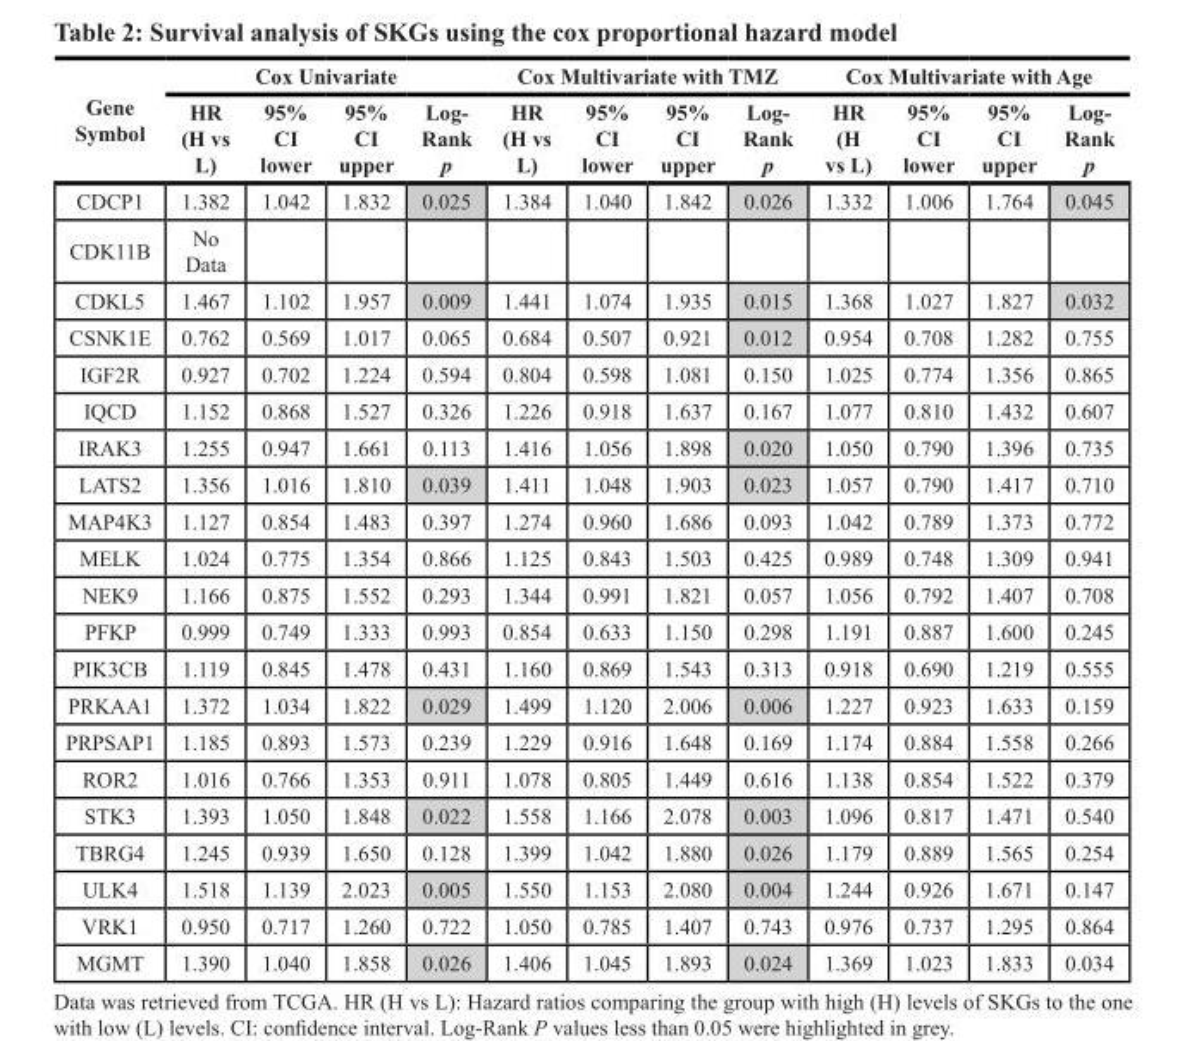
<table><thead><tr><td rowspan="2">Gene Symbol</td><td colspan="4">Cox Univariate</td><td colspan="4">Cox Multivariate with TMZ</td><td colspan="4">Cox Multivariate with Age</td></tr><tr><td>HR (H vs L)</td><td>95% CI lower</td><td>95% CI upper</td><td>Log- Rank p</td><td>HR (H vs L)</td><td>95% CI lower</td><td>95% CI upper</td><td>Log- Rank p</td><td>HR (H vs L)</td><td>95% CI lower</td><td>95% CI upper</td><td>Log- Rank p</td></tr></thead><tbody><tr><td>CDCP1</td><td>1.382</td><td>1.042</td><td>1.832</td><td>0.025</td><td>1.384</td><td>1.040</td><td>1.842</td><td>0.026</td><td>1.332</td><td>1.006</td><td>1.764</td><td>0.045</td></tr><tr><td>CDK11B</td><td>No Data</td><td></td><td></td><td></td><td></td><td></td><td></td><td></td><td></td><td></td><td></td><td></td></tr><tr><td>CDKL5</td><td>1.467</td><td>1.102</td><td>1.957</td><td>0.009</td><td>1.441</td><td>1.074</td><td>1.935</td><td>0.015</td><td>1.368</td><td>1.027</td><td>1.827</td><td>0.032</td></tr><tr><td>CSNK1E</td><td>0.762</td><td>0.569</td><td>1.017</td><td>0.065</td><td>0.684</td><td>0.507</td><td>0.921</td><td>0.012</td><td>0.954</td><td>0.708</td><td>1.282</td><td>0.755</td></tr><tr><td>IGF2R</td><td>0.927</td><td>0.702</td><td>1.224</td><td>0.594</td><td>0.804</td><td>0.598</td><td>1.081</td><td>0.150</td><td>1.025</td><td>0.774</td><td>1.356</td><td>0.865</td></tr><tr><td>IQCD</td><td>1.152</td><td>0.868</td><td>1.527</td><td>0.326</td><td>1.226</td><td>0.918</td><td>1.637</td><td>0.167</td><td>1.077</td><td>0.810</td><td>1.432</td><td>0.607</td></tr><tr><td>IRAK3</td><td>1.255</td><td>0.947</td><td>1.661</td><td>0.113</td><td>1.416</td><td>1.056</td><td>1.898</td><td>0.020</td><td>1.050</td><td>0.790</td><td>1.396</td><td>0.735</td></tr><tr><td>LATS2</td><td>1.356</td><td>1.016</td><td>1.810</td><td>0.039</td><td>1.411</td><td>1.048</td><td>1.903</td><td>0.023</td><td>1.057</td><td>0.790</td><td>1.417</td><td>0.710</td></tr><tr><td>MAP4K3</td><td>1.127</td><td>0.854</td><td>1.483</td><td>0.397</td><td>1.274</td><td>0.960</td><td>1.686</td><td>0.093</td><td>1.042</td><td>0.789</td><td>1.373</td><td>0.772</td></tr><tr><td>MELK</td><td>1.024</td><td>0.775</td><td>1.354</td><td>0.866</td><td>1.125</td><td>0.843</td><td>1.503</td><td>0.425</td><td>0.989</td><td>0.748</td><td>1.309</td><td>0.941</td></tr><tr><td>NEK9</td><td>1.166</td><td>0.875</td><td>1.552</td><td>0.293</td><td>1.344</td><td>0.991</td><td>1.821</td><td>0.057</td><td>1.056</td><td>0.792</td><td>1.407</td><td>0.708</td></tr><tr><td>PFKP</td><td>0.999</td><td>0.749</td><td>1.333</td><td>0.993</td><td>0.854</td><td>0.633</td><td>1.150</td><td>0.298</td><td>1.191</td><td>0.887</td><td>1.600</td><td>0.245</td></tr><tr><td>PIK3CB</td><td>1.119</td><td>0.845</td><td>1.478</td><td>0.431</td><td>1.160</td><td>0.869</td><td>1.543</td><td>0.313</td><td>0.918</td><td>0.690</td><td>1.219</td><td>0.555</td></tr><tr><td>PRKAA1</td><td>1.372</td><td>1.034</td><td>1.822</td><td>0.029</td><td>1.499</td><td>1.120</td><td>2.006</td><td>0.006</td><td>1.227</td><td>0.923</td><td>1.633</td><td>0.159</td></tr><tr><td>PRPSAP1</td><td>1.185</td><td>0.893</td><td>1.573</td><td>0.239</td><td>1.229</td><td>0.916</td><td>1.648</td><td>0.169</td><td>1.174</td><td>0.884</td><td>1.558</td><td>0.266</td></tr><tr><td>ROR2</td><td>1.016</td><td>0.766</td><td>1.353</td><td>0.911</td><td>1.078</td><td>0.805</td><td>1.449</td><td>0.616</td><td>1.138</td><td>0.854</td><td>1.522</td><td>0.379</td></tr><tr><td>STK3</td><td>1.393</td><td>1.050</td><td>1.848</td><td>0.022</td><td>1.558</td><td>1.166</td><td>2.078</td><td>0.003</td><td>1.096</td><td>0.817</td><td>1.471</td><td>0.540</td></tr><tr><td>TBRG4</td><td>1.245</td><td>0.939</td><td>1.650</td><td>0.128</td><td>1.399</td><td>1.042</td><td>1.880</td><td>0.026</td><td>1.179</td><td>0.889</td><td>1.565</td><td>0.254</td></tr><tr><td>ULK4</td><td>1.518</td><td>1.139</td><td>2.023</td><td>0.005</td><td>1.550</td><td>1.153</td><td>2.080</td><td>0.004</td><td>1.244</td><td>0.926</td><td>1.671</td><td>0.147</td></tr><tr><td>VRK1</td><td>0.950</td><td>0.717</td><td>1.260</td><td>0.722</td><td>1.050</td><td>0.785</td><td>1.407</td><td>0.743</td><td>0.976</td><td>0.737</td><td>1.295</td><td>0.864</td></tr><tr><td>MGMT</td><td>1.390</td><td>1.040</td><td>1.858</td><td>0.026</td><td>1.406</td><td>1.045</td><td>1.893</td><td>0.024</td><td>1.369</td><td>1.023</td><td>1.833</td><td>0.034</td></tr></tbody></table>